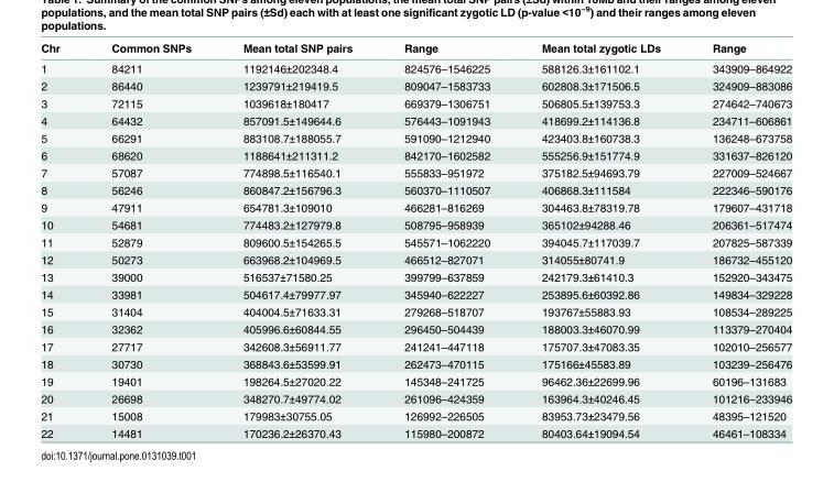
<table><thead><tr><td>Chr</td><td>Common SNPs</td><td>Mean total SNP pairs</td><td>Range</td><td>Mean total zygotic LDs</td><td>Range</td></tr></thead><tbody><tr><td>1</td><td>84211</td><td>1192146±202348.4</td><td>824576–1546225</td><td>588126.3±161102.1</td><td>343909–864922</td></tr><tr><td>2</td><td>86440</td><td>1239791±219419.5</td><td>809047–1583733</td><td>602808.3±171506.5</td><td>324909–883086</td></tr><tr><td>3</td><td>72115</td><td>1039618±180417</td><td>669379–1306751</td><td>506805.5±139753.3</td><td>274642–740673</td></tr><tr><td>4</td><td>64432</td><td>857091.5±149644.6</td><td>576443–1091943</td><td>418699.2±114136.8</td><td>234711–606861</td></tr><tr><td>5</td><td>66291</td><td>883108.7±188055.7</td><td>591090–1212940</td><td>423403.8±160738.3</td><td>136248–673758</td></tr><tr><td>6</td><td>68620</td><td>1188641±211311.2</td><td>842170–1602582</td><td>555256.9±151774.9</td><td>331637–826120</td></tr><tr><td>7</td><td>57087</td><td>774898.5±116540.1</td><td>555833–951972</td><td>375182.5±94693.79</td><td>227009–524667</td></tr><tr><td>8</td><td>56246</td><td>860847.2±156796.3</td><td>560370–1110507</td><td>406868.3±111584</td><td>222346–590176</td></tr><tr><td>9</td><td>47911</td><td>654781.3±109010</td><td>466281–816269</td><td>304463.8±78319.78</td><td>179607–431718</td></tr><tr><td>10</td><td>54681</td><td>774483.2±127979.8</td><td>508795–958939</td><td>365102±94288.46</td><td>206361–517474</td></tr><tr><td>11</td><td>52879</td><td>809600.5±154265.5</td><td>545571–1062220</td><td>394045.7±117039.7</td><td>207825–587339</td></tr><tr><td>12</td><td>50273</td><td>663968.2±104969.5</td><td>466512–827071</td><td>314055±80741.9</td><td>186732–455120</td></tr><tr><td>13</td><td>39000</td><td>516537±71580.25</td><td>399799–637859</td><td>242179.3±61410.3</td><td>152920–343475</td></tr><tr><td>14</td><td>33981</td><td>504617.4±79977.97</td><td>345940–622227</td><td>253895.6±60392.86</td><td>149834–329228</td></tr><tr><td>15</td><td>31404</td><td>404004.5±71633.31</td><td>279268–518707</td><td>193767±55883.93</td><td>108534–289225</td></tr><tr><td>16</td><td>32362</td><td>405996.6±60844.55</td><td>296450–504439</td><td>188003.3±46070.99</td><td>113379–270404</td></tr><tr><td>17</td><td>27717</td><td>342608.3±56911.77</td><td>241241–447118</td><td>175707.3±47083.35</td><td>102010–256577</td></tr><tr><td>18</td><td>30730</td><td>368843.6±53599.91</td><td>262473–470115</td><td>175166±45583.89</td><td>103239–256476</td></tr><tr><td>19</td><td>19401</td><td>198264.5±27020.22</td><td>145348–241725</td><td>96462.36±22699.96</td><td>60196–131683</td></tr><tr><td>20</td><td>26698</td><td>348270.7±49774.02</td><td>261096–424359</td><td>163964.3±40246.45</td><td>101216–233946</td></tr><tr><td>21</td><td>15008</td><td>179983±30755.05</td><td>126992–226505</td><td>83953.73±23479.56</td><td>48395–121520</td></tr><tr><td>22</td><td>14481</td><td>170236.2±26370.43</td><td>115980–200872</td><td>80403.64±19094.54</td><td>46461–108334</td></tr></tbody></table>